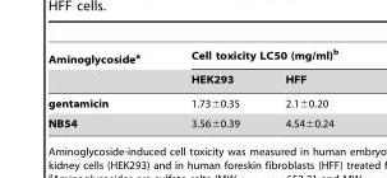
<table><thead><tr><td rowspan="2">Aminoglycoside<sup>a</sup></td><td colspan="2">Cell toxicity LC50 (mg/ml)<sup>b</sup></td></tr><tr><td>HEK293</td><td>HFF</td></tr></thead><tbody><tr><td>gentamicin</td><td>1.73±0.35</td><td>2.1±0.20</td></tr><tr><td>NB54</td><td>3.56±0.39</td><td>4.54±0.24</td></tr></tbody></table>